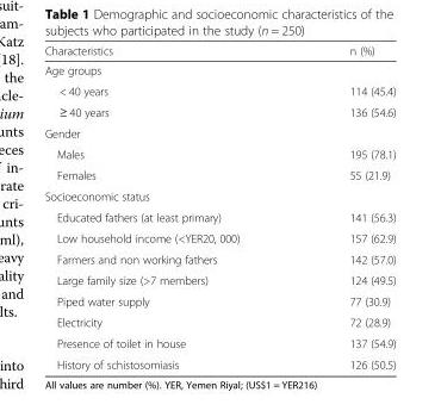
<table><thead><tr><td>Characteristics</td><td>n (%)</td></tr></thead><tbody><tr><td colspan="2">Age groups</td></tr><tr><td>&lt; 40 years</td><td>114 (45.4)</td></tr><tr><td>≥ 40 years</td><td>136 (54.6)</td></tr><tr><td colspan="2">Gender</td></tr><tr><td>Males</td><td>195 (78.1)</td></tr><tr><td>Females</td><td>55 (21.9)</td></tr><tr><td colspan="2">Socioeconomic status</td></tr><tr><td>Educated fathers (at least primary)</td><td>141 (56.3)</td></tr><tr><td>Low household income (&lt;YER20, 000)</td><td>157 (62.9)</td></tr><tr><td>Farmers and non working fathers</td><td>142 (57.0)</td></tr><tr><td>Large family size (&gt;7 members)</td><td>124 (49.5)</td></tr><tr><td>Piped water supply</td><td>77 (30.9)</td></tr><tr><td>Electricity</td><td>72 (28.9)</td></tr><tr><td>Presence of toilet in house</td><td>137 (54.9)</td></tr><tr><td>History of schistosomiasis</td><td>126 (50.5)</td></tr></tbody></table>